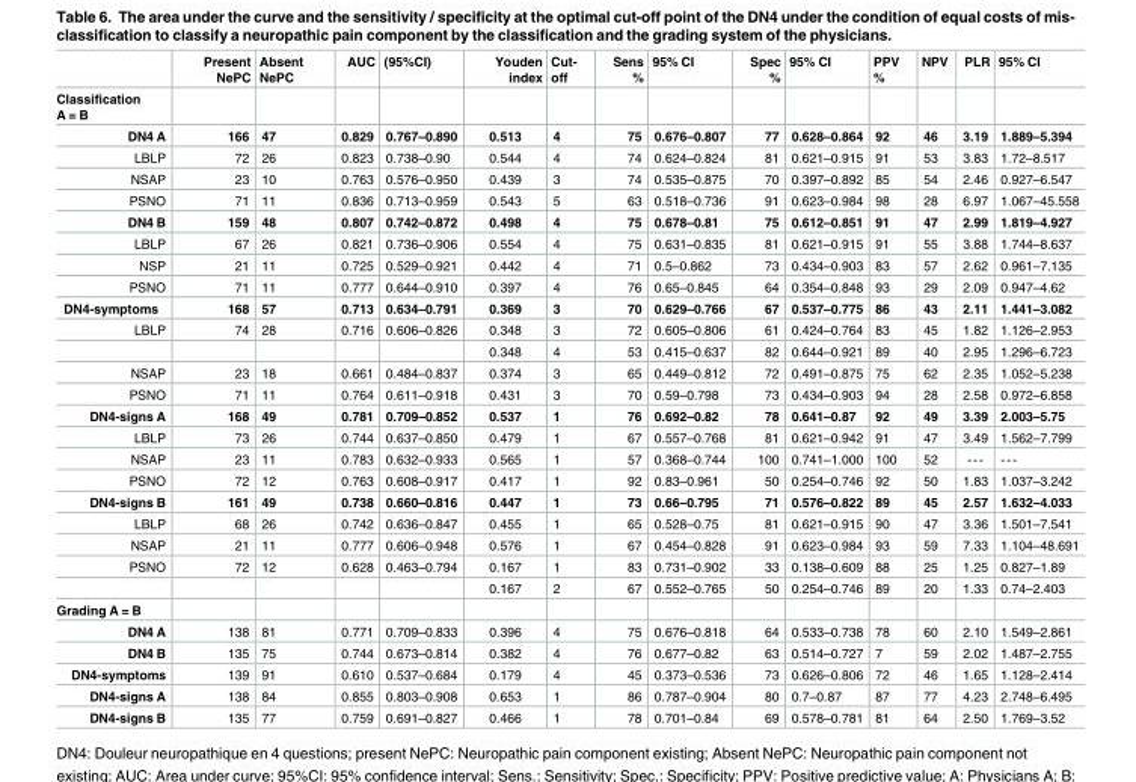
<table><thead><tr><td></td><td>Present NePC</td><td>Absent NePC</td><td>AUC</td><td>(95%CI)</td><td>Youden index</td><td>Cut- off</td><td>Sens %</td><td>95% CI</td><td>Spec %</td><td>95% CI</td><td>PPV %</td><td>NPV</td><td>PLR</td><td>95% CI</td></tr></thead><tbody><tr><td colspan="15">Classification A = B</td></tr><tr><td>DN4 A</td><td>166</td><td>47</td><td>0.829</td><td>0.767–0.890</td><td>0.513</td><td>4</td><td>75</td><td>0.676–0.807</td><td>77</td><td>0.628–0.864</td><td>92</td><td>46</td><td>3.19</td><td>1.889–5.394</td></tr><tr><td>LBLP</td><td>72</td><td>26</td><td>0.823</td><td>0.738–0.90</td><td>0.544</td><td>4</td><td>74</td><td>0.624–0.824</td><td>81</td><td>0.621–0.915</td><td>91</td><td>53</td><td>3.83</td><td>1.72–8.517</td></tr><tr><td>NSAP</td><td>23</td><td>10</td><td>0.763</td><td>0.576–0.950</td><td>0.439</td><td>3</td><td>74</td><td>0.535–0.875</td><td>70</td><td>0.397–0.892</td><td>85</td><td>54</td><td>2.46</td><td>0.927–6.547</td></tr><tr><td>PSNO</td><td>71</td><td>11</td><td>0.836</td><td>0.713–0.959</td><td>0.543</td><td>5</td><td>63</td><td>0.518–0.736</td><td>91</td><td>0.623–0.984</td><td>98</td><td>28</td><td>6.97</td><td>1.067–45.558</td></tr><tr><td>DN4 B</td><td>159</td><td>48</td><td>0.807</td><td>0.742–0.872</td><td>0.498</td><td>4</td><td>75</td><td>0.678–0.81</td><td>75</td><td>0.612–0.851</td><td>91</td><td>47</td><td>2.99</td><td>1.819–4.927</td></tr><tr><td>LBLP</td><td>67</td><td>26</td><td>0.821</td><td>0.736–0.906</td><td>0.554</td><td>4</td><td>75</td><td>0.631–0.835</td><td>81</td><td>0.621–0.915</td><td>91</td><td>55</td><td>3.88</td><td>1.744–8.637</td></tr><tr><td>NSP</td><td>21</td><td>11</td><td>0.725</td><td>0.529–0.921</td><td>0.442</td><td>4</td><td>71</td><td>0.5–0.862</td><td>73</td><td>0.434–0.903</td><td>83</td><td>57</td><td>2.62</td><td>0.961–7.135</td></tr><tr><td>PSNO</td><td>71</td><td>11</td><td>0.777</td><td>0.644–0.910</td><td>0.397</td><td>4</td><td>76</td><td>0.65–0.845</td><td>64</td><td>0.354–0.848</td><td>93</td><td>29</td><td>2.09</td><td>0.947–4.62</td></tr><tr><td>DN4-symptoms</td><td>168</td><td>57</td><td>0.713</td><td>0.634–0.791</td><td>0.369</td><td>3</td><td>70</td><td>0.629–0.766</td><td>67</td><td>0.537–0.775</td><td>86</td><td>43</td><td>2.11</td><td>1.441–3.082</td></tr><tr><td rowspan="2">LBLP</td><td>74</td><td>28</td><td>0.716</td><td>0.606–0.826</td><td>0.348</td><td>3</td><td>72</td><td>0.605–0.806</td><td>61</td><td>0.424–0.764</td><td>83</td><td>45</td><td>1.82</td><td>1.126–2.953</td></tr><tr><td></td><td></td><td></td><td></td><td>0.348</td><td>4</td><td>53</td><td>0.415–0.637</td><td>82</td><td>0.644–0.921</td><td>89</td><td>40</td><td>2.95</td><td>1.296–6.723</td></tr><tr><td>NSAP</td><td>23</td><td>18</td><td>0.661</td><td>0.484–0.837</td><td>0.374</td><td>3</td><td>65</td><td>0.449–0.812</td><td>72</td><td>0.491–0.875</td><td>75</td><td>62</td><td>2.35</td><td>1.052–5.238</td></tr><tr><td>PSNO</td><td>71</td><td>11</td><td>0.764</td><td>0.611–0.918</td><td>0.431</td><td>3</td><td>70</td><td>0.59–0.798</td><td>73</td><td>0.434–0.903</td><td>94</td><td>28</td><td>2.58</td><td>0.972–6.858</td></tr><tr><td>DN4-signs A</td><td>168</td><td>49</td><td>0.781</td><td>0.709–0.852</td><td>0.537</td><td>1</td><td>76</td><td>0.692–0.82</td><td>78</td><td>0.641–0.87</td><td>92</td><td>49</td><td>3.39</td><td>2.003–5.75</td></tr><tr><td>LBLP</td><td>73</td><td>26</td><td>0.744</td><td>0.637–0.850</td><td>0.479</td><td>1</td><td>67</td><td>0.557–0.768</td><td>81</td><td>0.621–0.942</td><td>91</td><td>47</td><td>3.49</td><td>1.562–7.799</td></tr><tr><td>NSAP</td><td>23</td><td>11</td><td>0.783</td><td>0.632–0.933</td><td>0.565</td><td>1</td><td>57</td><td>0.368–0.744</td><td>100</td><td>0.741–1.000</td><td>100</td><td>52</td><td>---</td><td>---</td></tr><tr><td>PSNO</td><td>72</td><td>12</td><td>0.763</td><td>0.608–0.917</td><td>0.417</td><td>1</td><td>92</td><td>0.83–0.961</td><td>50</td><td>0.254–0.746</td><td>92</td><td>50</td><td>1.83</td><td>1.037–3.242</td></tr><tr><td>DN4-signs B</td><td>161</td><td>49</td><td>0.738</td><td>0.660–0.816</td><td>0.447</td><td>1</td><td>73</td><td>0.66–0.795</td><td>71</td><td>0.576–0.822</td><td>89</td><td>45</td><td>2.57</td><td>1.632–4.033</td></tr><tr><td>LBLP</td><td>68</td><td>26</td><td>0.742</td><td>0.636–0.847</td><td>0.455</td><td>1</td><td>65</td><td>0.528–0.75</td><td>81</td><td>0.621–0.915</td><td>90</td><td>47</td><td>3.36</td><td>1.501–7.541</td></tr><tr><td>NSAP</td><td>21</td><td>11</td><td>0.777</td><td>0.606–0.948</td><td>0.576</td><td>1</td><td>67</td><td>0.454–0.828</td><td>91</td><td>0.623–0.984</td><td>93</td><td>59</td><td>7.33</td><td>1.104–48.691</td></tr><tr><td rowspan="2">PSNO</td><td>72</td><td>12</td><td>0.628</td><td>0.463–0.794</td><td>0.167</td><td>1</td><td>83</td><td>0.731–0.902</td><td>33</td><td>0.138–0.609</td><td>88</td><td>25</td><td>1.25</td><td>0.827–1.89</td></tr><tr><td></td><td></td><td></td><td></td><td>0.167</td><td>2</td><td>67</td><td>0.552–0.765</td><td>50</td><td>0.254–0.746</td><td>89</td><td>20</td><td>1.33</td><td>0.74–2.403</td></tr><tr><td colspan="15">Grading A = B</td></tr><tr><td>DN4 A</td><td>138</td><td>81</td><td>0.771</td><td>0.709–0.833</td><td>0.396</td><td>4</td><td>75</td><td>0.676–0.818</td><td>64</td><td>0.533–0.738</td><td>78</td><td>60</td><td>2.10</td><td>1.549–2.861</td></tr><tr><td>DN4 B</td><td>135</td><td>75</td><td>0.744</td><td>0.673–0.814</td><td>0.382</td><td>4</td><td>76</td><td>0.677–0.82</td><td>63</td><td>0.514–0.727</td><td>7</td><td>59</td><td>2.02</td><td>1.487–2.755</td></tr><tr><td>DN4-symptoms</td><td>139</td><td>91</td><td>0.610</td><td>0.537–0.684</td><td>0.179</td><td>4</td><td>45</td><td>0.373–0.536</td><td>73</td><td>0.626–0.806</td><td>72</td><td>46</td><td>1.65</td><td>1.128–2.414</td></tr><tr><td>DN4-signs A</td><td>138</td><td>84</td><td>0.855</td><td>0.803–0.908</td><td>0.653</td><td>1</td><td>86</td><td>0.787–0.904</td><td>80</td><td>0.7–0.87</td><td>87</td><td>77</td><td>4.23</td><td>2.748–6.495</td></tr><tr><td>DN4-signs B</td><td>135</td><td>77</td><td>0.759</td><td>0.691–0.827</td><td>0.466</td><td>1</td><td>78</td><td>0.701–0.84</td><td>69</td><td>0.578–0.781</td><td>81</td><td>64</td><td>2.50</td><td>1.769–3.52</td></tr></tbody></table>